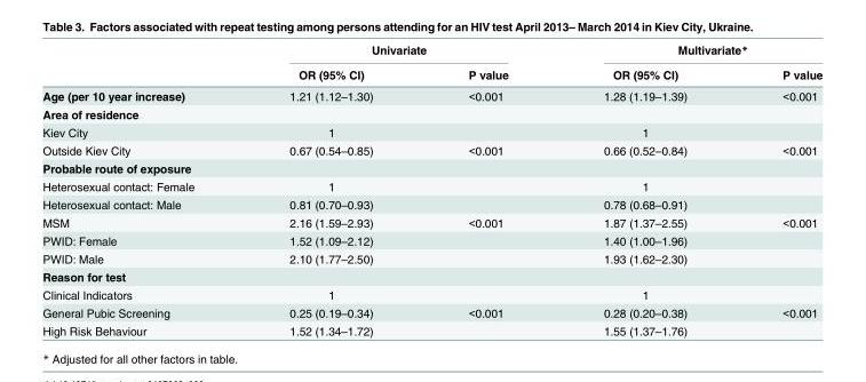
<table><thead><tr><td rowspan="2"></td><td colspan="2">Univariate</td><td colspan="2">Multivariate*</td></tr><tr><td>OR (95% CI)</td><td>P value</td><td>OR (95% CI)</td><td>P value</td></tr></thead><tbody><tr><td>Age (per 10 year increase)</td><td>1.21 (1.12–1.30)</td><td>&lt;0.001</td><td>1.28 (1.19–1.39)</td><td>&lt;0.001</td></tr><tr><td colspan="5">Area of residence</td></tr><tr><td>Kiev City</td><td>1</td><td></td><td>1</td><td></td></tr><tr><td>Outside Kiev City</td><td>0.67 (0.54–0.85)</td><td>&lt;0.001</td><td>0.66 (0.52–0.84)</td><td>&lt;0.001</td></tr><tr><td colspan="5">Probable route of exposure</td></tr><tr><td>Heterosexual contact: Female</td><td>1</td><td></td><td>1</td><td></td></tr><tr><td>Heterosexual contact: Male</td><td>0.81 (0.70–0.93)</td><td></td><td>0.78 (0.68–0.91)</td><td></td></tr><tr><td>MSM</td><td>2.16 (1.59–2.93)</td><td>&lt;0.001</td><td>1.87 (1.37–2.55)</td><td>&lt;0.001</td></tr><tr><td>PWID: Female</td><td>1.52 (1.09–2.12)</td><td></td><td>1.40 (1.00–1.96)</td><td></td></tr><tr><td>PWID: Male</td><td>2.10 (1.77–2.50)</td><td></td><td>1.93 (1.62–2.30)</td><td></td></tr><tr><td colspan="5">Reason for test</td></tr><tr><td>Clinical Indicators</td><td>1</td><td></td><td>1</td><td></td></tr><tr><td>General Pubic Screening</td><td>0.25 (0.19–0.34)</td><td>&lt;0.001</td><td>0.28 (0.20–0.38)</td><td>&lt;0.001</td></tr><tr><td>High Risk Behaviour</td><td>1.52 (1.34–1.72)</td><td></td><td>1.55 (1.37–1.76)</td><td></td></tr></tbody></table>